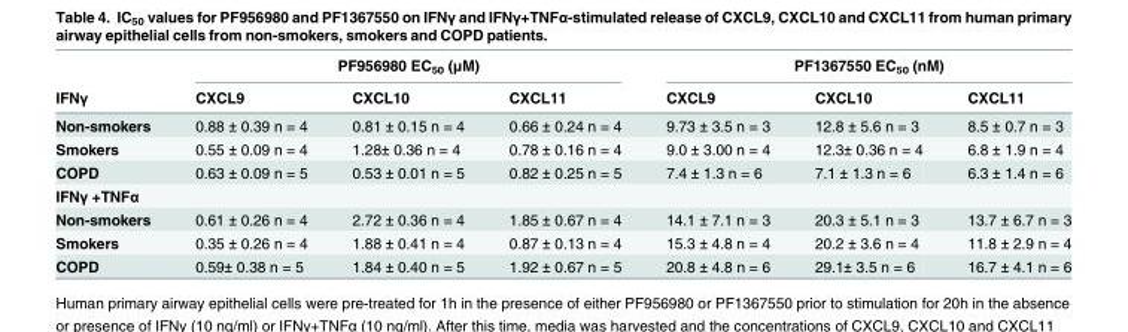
<table><thead><tr><td rowspan="2">IFNγ</td><td colspan="3">PF956980 EC<sub>50</sub> (μM)</td><td colspan="3">PF1367550 EC<sub>50</sub> (nM)</td></tr><tr><td>CXCL9</td><td>CXCL10</td><td>CXCL11</td><td>CXCL9</td><td>CXCL10</td><td>CXCL11</td></tr></thead><tbody><tr><td>Non-smokers</td><td>0.88 ± 0.39 n = 4</td><td>0.81 ± 0.15 n = 4</td><td>0.66 ± 0.24 n = 4</td><td>9.73 ± 3.5 n = 3</td><td>12.8 ± 5.6 n = 3</td><td>8.5 ± 0.7 n = 3</td></tr><tr><td>Smokers</td><td>0.55 ± 0.09 n = 4</td><td>1.28± 0.36 n = 4</td><td>0.78 ± 0.16 n = 4</td><td>9.0 ± 3.00 n = 4</td><td>12.3± 0.36 n = 4</td><td>6.8 ± 1.9 n = 4</td></tr><tr><td>COPD</td><td>0.63 ± 0.09 n = 5</td><td>0.53 ± 0.01 n = 5</td><td>0.82 ± 0.25 n = 5</td><td>7.4 ± 1.3 n = 6</td><td>7.1 ± 1.3 n = 6</td><td>6.3 ± 1.4 n = 6</td></tr><tr><td colspan="7">IFNγ +TNFα</td></tr><tr><td>Non-smokers</td><td>0.61 ± 0.26 n = 4</td><td>2.72 ± 0.36 n = 4</td><td>1.85 ± 0.67 n = 4</td><td>14.1 ± 7.1 n = 3</td><td>20.3 ± 5.1 n = 3</td><td>13.7 ± 6.7 n = 3</td></tr><tr><td>Smokers</td><td>0.35 ± 0.26 n = 4</td><td>1.88 ± 0.41 n = 4</td><td>0.87 ± 0.13 n = 4</td><td>15.3 ± 4.8 n = 4</td><td>20.2 ± 3.6 n = 4</td><td>11.8 ± 2.9 n = 4</td></tr><tr><td>COPD</td><td>0.59± 0.38 n = 5</td><td>1.84 ± 0.40 n = 5</td><td>1.92 ± 0.67 n = 5</td><td>20.8 ± 4.8 n = 6</td><td>29.1± 3.5 n = 6</td><td>16.7 ± 4.1 n = 6</td></tr></tbody></table>